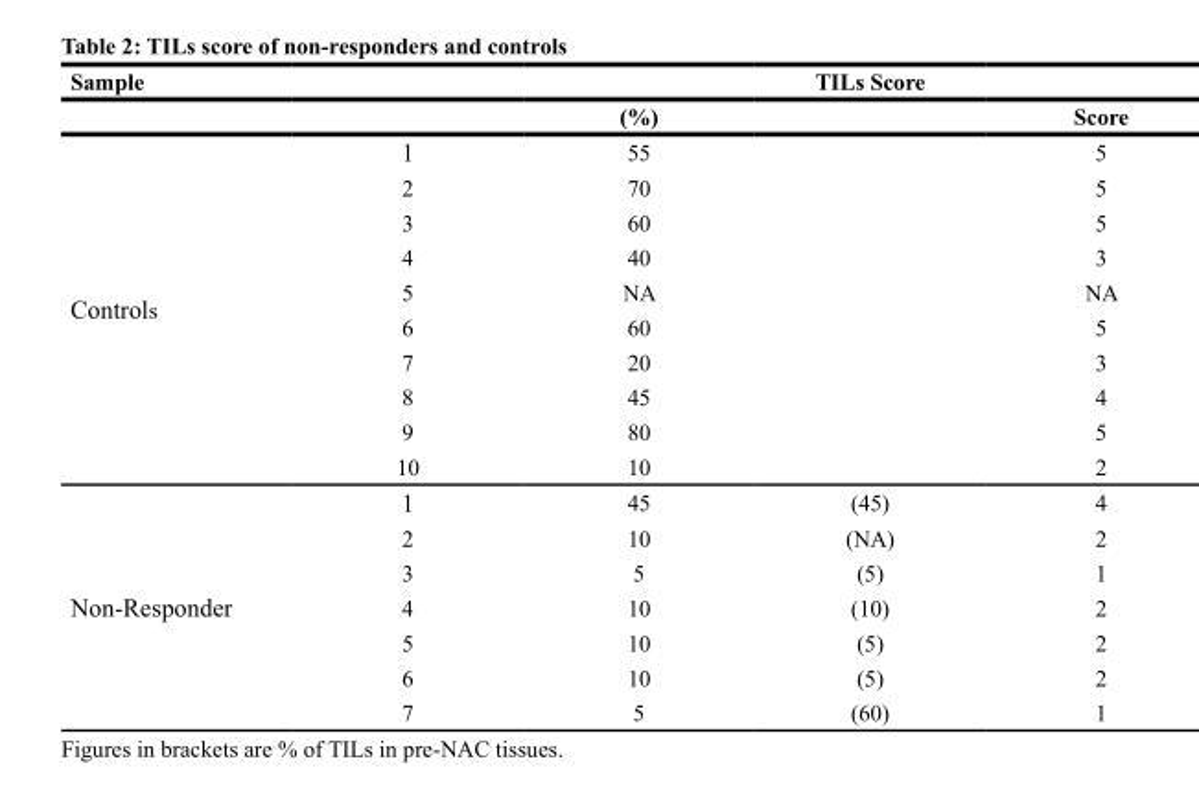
<table><thead><tr><td colspan="2">Sample</td><td colspan="3">TILs Score</td></tr><tr><td></td><td></td><td>(%)</td><td></td><td>Score</td></tr></thead><tbody><tr><td rowspan="10">Controls</td><td>1</td><td>55</td><td></td><td>5</td></tr><tr><td>2</td><td>70</td><td></td><td>5</td></tr><tr><td>3</td><td>60</td><td></td><td>5</td></tr><tr><td>4</td><td>40</td><td></td><td>3</td></tr><tr><td>5</td><td>NA</td><td></td><td>NA</td></tr><tr><td>6</td><td>60</td><td></td><td>5</td></tr><tr><td>7</td><td>20</td><td></td><td>3</td></tr><tr><td>8</td><td>45</td><td></td><td>4</td></tr><tr><td>9</td><td>80</td><td></td><td>5</td></tr><tr><td>10</td><td>10</td><td></td><td>2</td></tr><tr><td rowspan="7">Non-Responder</td><td>1</td><td>45</td><td>(45)</td><td>4</td></tr><tr><td>2</td><td>10</td><td>(NA)</td><td>2</td></tr><tr><td>3</td><td>5</td><td>(5)</td><td>1</td></tr><tr><td>4</td><td>10</td><td>(10)</td><td>2</td></tr><tr><td>5</td><td>10</td><td>(5)</td><td>2</td></tr><tr><td>6</td><td>10</td><td>(5)</td><td>2</td></tr><tr><td>7</td><td>5</td><td>(60)</td><td>1</td></tr></tbody></table>